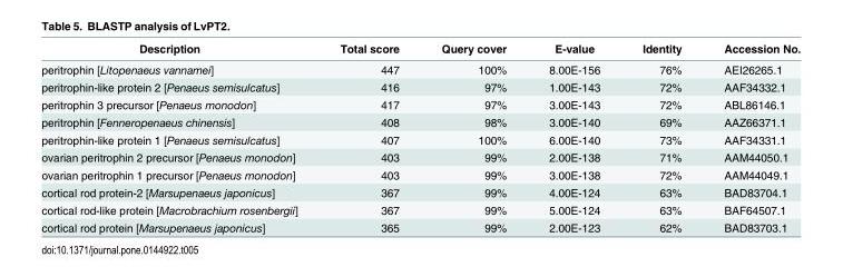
<table><thead><tr><td>Description</td><td>Total score</td><td>Query cover</td><td>E-value</td><td>Identity</td><td>Accession No.</td></tr></thead><tbody><tr><td>peritrophin [Litopenaeus vannamei]</td><td>447</td><td>100%</td><td>8.00E-156</td><td>76%</td><td>AEI26265.1</td></tr><tr><td>peritrophin-like protein 2 [Penaeus semisulcatus]</td><td>416</td><td>97%</td><td>1.00E-143</td><td>72%</td><td>AAF34332.1</td></tr><tr><td>peritrophin 3 precursor [Penaeus monodon]</td><td>417</td><td>97%</td><td>3.00E-143</td><td>72%</td><td>ABL86146.1</td></tr><tr><td>peritrophin [Fenneropenaeus chinensis]</td><td>408</td><td>98%</td><td>3.00E-140</td><td>69%</td><td>AAZ66371.1</td></tr><tr><td>peritrophin-like protein 1 [Penaeus semisulcatus]</td><td>407</td><td>100%</td><td>6.00E-140</td><td>73%</td><td>AAF34331.1</td></tr><tr><td>ovarian peritrophin 2 precursor [Penaeus monodon]</td><td>403</td><td>99%</td><td>2.00E-138</td><td>71%</td><td>AAM44050.1</td></tr><tr><td>ovarian peritrophin 1 precursor [Penaeus monodon]</td><td>403</td><td>99%</td><td>3.00E-138</td><td>72%</td><td>AAM44049.1</td></tr><tr><td>cortical rod protein-2 [Marsupenaeus japonicus]</td><td>367</td><td>99%</td><td>4.00E-124</td><td>63%</td><td>BAD83704.1</td></tr><tr><td>cortical rod-like protein [Macrobrachium rosenbergii]</td><td>367</td><td>99%</td><td>5.00E-124</td><td>63%</td><td>BAF64507.1</td></tr><tr><td>cortical rod protein [Marsupenaeus japonicus]</td><td>365</td><td>99%</td><td>2.00E-123</td><td>62%</td><td>BAD83703.1</td></tr></tbody></table>